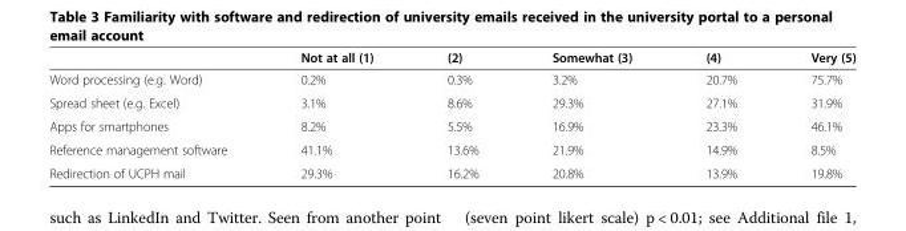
<table><thead><tr><td></td><td>Not at all (1)</td><td>(2)</td><td>Somewhat (3)</td><td>(4)</td><td>Very (5)</td></tr></thead><tbody><tr><td>Word processing (e.g. Word)</td><td>0.2%</td><td>0.3%</td><td>3.2%</td><td>20.7%</td><td>75.7%</td></tr><tr><td>Spread sheet (e.g. Excel)</td><td>3.1%</td><td>8.6%</td><td>29.3%</td><td>27.1%</td><td>31.9%</td></tr><tr><td>Apps for smartphones</td><td>8.2%</td><td>5.5%</td><td>16.9%</td><td>23.3%</td><td>46.1%</td></tr><tr><td>Reference management software</td><td>41.1%</td><td>13.6%</td><td>21.9%</td><td>14.9%</td><td>8.5%</td></tr><tr><td>Redirection of UCPH mail</td><td>29.3%</td><td>16.2%</td><td>20.8%</td><td>13.9%</td><td>19.8%</td></tr></tbody></table>